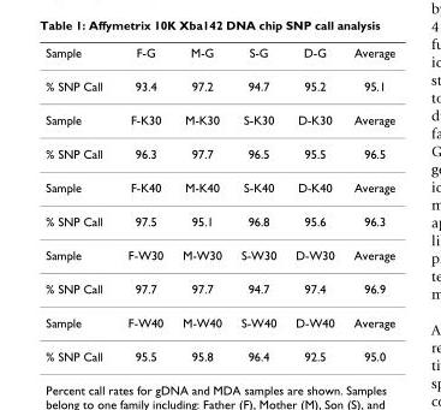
<table><thead><tr><td>Sample</td><td>F-G</td><td>M-G</td><td>S-G</td><td>D-G</td><td>Average</td></tr></thead><tbody><tr><td>% SNP Call</td><td>93.4</td><td>97.2</td><td>94.7</td><td>95.2</td><td>95.1</td></tr><tr><td>Sample</td><td>F-K30</td><td>M-K30</td><td>S-K30</td><td>D-K30</td><td>Average</td></tr><tr><td>% SNP Call</td><td>96.3</td><td>97.7</td><td>96.5</td><td>95.5</td><td>96.5</td></tr><tr><td>Sample</td><td>F-K40</td><td>M-K40</td><td>S-K40</td><td>D-K40</td><td>Average</td></tr><tr><td>% SNP Call</td><td>97.5</td><td>95.1</td><td>96.8</td><td>95.6</td><td>96.3</td></tr><tr><td>Sample</td><td>F-W30</td><td>M-W30</td><td>S-W30</td><td>D-W30</td><td>Average</td></tr><tr><td>% SNP Call</td><td>97.7</td><td>97.7</td><td>94.7</td><td>97.4</td><td>96.9</td></tr><tr><td>Sample</td><td>F-W40</td><td>M-W40</td><td>S-W40</td><td>D-W40</td><td>Average</td></tr><tr><td>% SNP Call</td><td>95.5</td><td>95.8</td><td>96.4</td><td>92.5</td><td>95.0</td></tr></tbody></table>